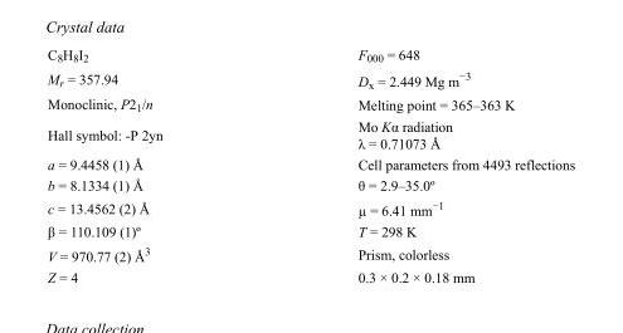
<table><tbody><tr><td>C<sub>8</sub>H<sub>8</sub>I<sub>2</sub></td><td>F000 = 648</td></tr><tr><td>M<sub>r</sub> = 357.94</td><td>D<sub>x</sub> = 2.449 Mg m<sup>−3</sup></td></tr><tr><td>Monoclinic, P2<sub>1</sub>/n</td><td>Melting point = 365–363 K</td></tr><tr><td>Hall symbol: -P 2yn</td><td>Mo Kα radiation λ = 0.71073 Å</td></tr><tr><td>a = 9.4458 (1) Å</td><td>Cell parameters from 4493 reflections</td></tr><tr><td>b = 8.1334 (1) Å</td><td>θ = 2.9–35.0º</td></tr><tr><td>c = 13.4562 (2) Å</td><td>µ = 6.41 mm<sup>−1</sup></td></tr><tr><td>β = 110.109 (1)º</td><td>T = 298 K</td></tr><tr><td>V = 970.77 (2) Å<sup>3</sup></td><td>Prism, colorless</td></tr><tr><td>Z = 4</td><td>0.3 × 0.2 × 0.18 mm</td></tr></tbody></table>